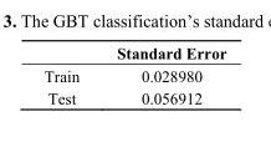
<table><thead><tr><td></td><td>Standard Error</td></tr></thead><tbody><tr><td>Train</td><td>0.028980</td></tr><tr><td>Test</td><td>0.056912</td></tr></tbody></table>